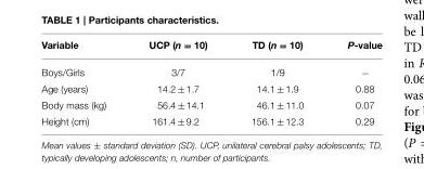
<table><thead><tr><td>Variable</td><td>UCP (n = 10)</td><td>TD (n = 10)</td><td>P-value</td></tr></thead><tbody><tr><td>Boys/Girls</td><td>3/7</td><td>1/9</td><td>−</td></tr><tr><td>Age (years)</td><td>14.2 ± 1.7</td><td>14.1 ± 1.9</td><td>0.88</td></tr><tr><td>Body mass (kg)</td><td>56.4 ± 14.1</td><td>46.1 ± 11.0</td><td>0.07</td></tr><tr><td>Height (cm)</td><td>161.4 ± 9.2</td><td>156.1 ± 12.3</td><td>0.29</td></tr></tbody></table>